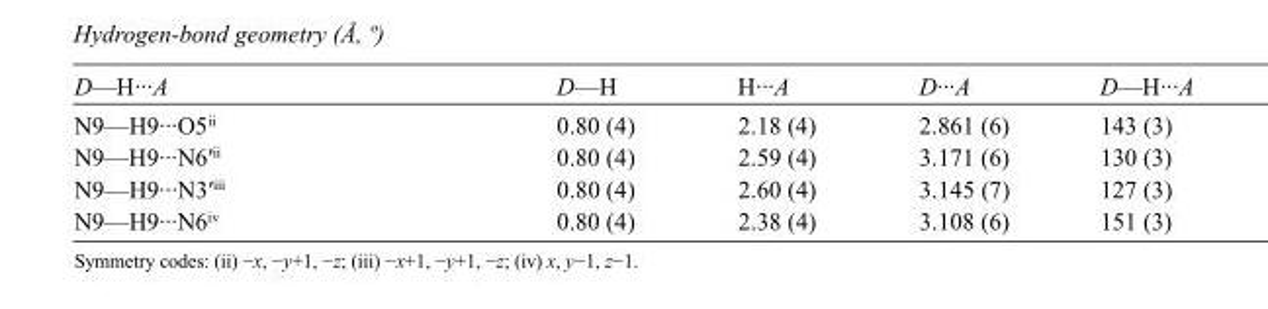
<table><tbody><tr><td>D—H···A</td><td>D—H</td><td>H···A</td><td>D···A</td><td>D—H···A</td></tr><tr><td>N9—H9···O5<sup>ii</sup></td><td>0.80 (4)</td><td>2.18 (4)</td><td>2.861 (6)</td><td>143 (3)</td></tr><tr><td>N9—H9···N6′<sup>ii</sup></td><td>0.80 (4)</td><td>2.59 (4)</td><td>3.171 (6)</td><td>130 (3)</td></tr><tr><td>N9—H9···N3′<sup>iii</sup></td><td>0.80 (4)</td><td>2.60 (4)</td><td>3.145 (7)</td><td>127 (3)</td></tr><tr><td>N9—H9···N6<sup>iv</sup></td><td>0.80 (4)</td><td>2.38 (4)</td><td>3.108 (6)</td><td>151 (3)</td></tr></tbody></table>